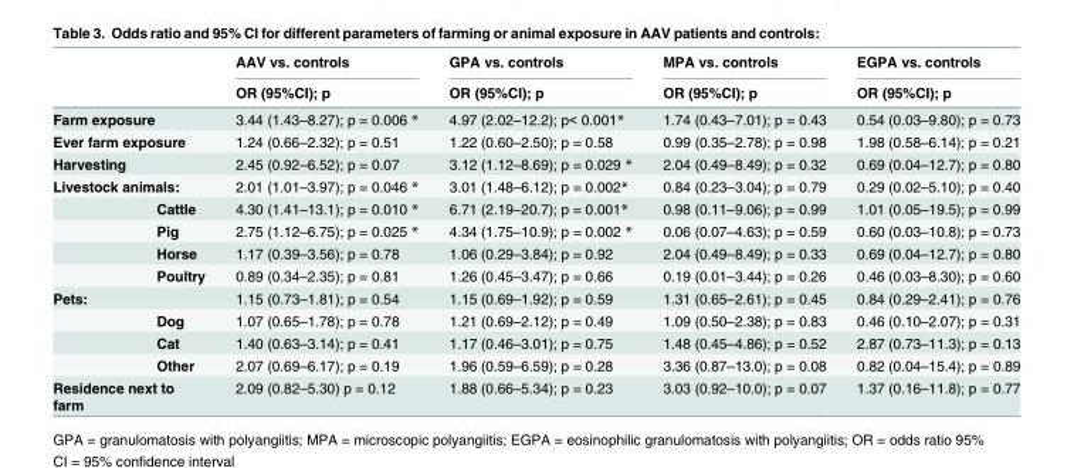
<table><thead><tr><td rowspan="2"></td><td rowspan="2"></td><td rowspan="2">AAV vs. controls OR (95%CI); p</td><td rowspan="2">GPA vs. controls OR (95%CI); p</td><td rowspan="2">MPA vs. controls OR (95%CI); p</td><td rowspan="2">EGPA vs. controls OR (95%CI); p</td></tr><tr></tr></thead><tbody><tr><td colspan="2">Farm exposure</td><td>3.44 (1.43–8.27); p = 0.006 *</td><td>4.97 (2.02–12.2); p&lt; 0.001*</td><td>1.74 (0.43–7.01); p = 0.43</td><td>0.54 (0.03–9.80); p = 0.73</td></tr><tr><td colspan="2">Ever farm exposure</td><td>1.24 (0.66–2.32); p = 0.51</td><td>1.22 (0.60–2.50); p = 0.58</td><td>0.99 (0.35–2.78); p = 0.98</td><td>1.98 (0.58–6.14); p = 0.21</td></tr><tr><td>Harvesting</td><td></td><td>2.45 (0.92–6.52); p = 0.07</td><td>3.12 (1.12–8.69); p = 0.029 *</td><td>2.04 (0.49–8.49); p = 0.32</td><td>0.69 (0.04–12.7); p = 0.80</td></tr><tr><td colspan="2">Livestock animals:</td><td>2.01 (1.01–3.97); p = 0.046 *</td><td>3.01 (1.48–6.12); p = 0.002*</td><td>0.84 (0.23–3.04); p = 0.79</td><td>0.29 (0.02–5.10); p = 0.40</td></tr><tr><td></td><td>Cattle</td><td>4.30 (1.41–13.1); p = 0.010 *</td><td>6.71 (2.19–20.7); p = 0.001*</td><td>0.98 (0.11–9.06); p = 0.99</td><td>1.01 (0.05–19.5); p = 0.99</td></tr><tr><td></td><td>Pig</td><td>2.75 (1.12–6.75); p = 0.025 *</td><td>4.34 (1.75–10.9); p = 0.002 *</td><td>0.06 (0.07–4.63); p = 0.59</td><td>0.60 (0.03–10.8); p = 0.73</td></tr><tr><td></td><td>Horse</td><td>1.17 (0.39–3.56); p = 0.78</td><td>1.06 (0.29–3.84); p = 0.92</td><td>2.04 (0.49–8.49); p = 0.33</td><td>0.69 (0.04–12.7); p = 0.80</td></tr><tr><td></td><td>Poultry</td><td>0.89 (0.34–2.35); p = 0.81</td><td>1.26 (0.45–3.47); p = 0.66</td><td>0.19 (0.01–3.44); p = 0.26</td><td>0.46 (0.03–8.30); p = 0.60</td></tr><tr><td rowspan="4">Pets:</td><td></td><td>1.15 (0.73–1.81); p = 0.54</td><td>1.15 (0.69–1.92); p = 0.59</td><td>1.31 (0.65–2.61); p = 0.45</td><td>0.84 (0.29–2.41); p = 0.76</td></tr><tr><td>Dog</td><td>1.07 (0.65–1.78); p = 0.78</td><td>1.21 (0.69–2.12); p = 0.49</td><td>1.09 (0.50–2.38); p = 0.83</td><td>0.46 (0.10–2.07); p = 0.31</td></tr><tr><td>Cat</td><td>1.40 (0.63–3.14); p = 0.41</td><td>1.17 (0.46–3.01); p = 0.75</td><td>1.48 (0.45–4.86); p = 0.52</td><td>2.87 (0.73–11.3); p = 0.13</td></tr><tr><td>Other</td><td>2.07 (0.69–6.17); p = 0.19</td><td>1.96 (0.59–6.59); p = 0.28</td><td>3.36 (0.87–13.0); p = 0.08</td><td>0.82 (0.04–15.4); p = 0.89</td></tr><tr><td colspan="2">Residence next to farm</td><td>2.09 (0.82–5.30) p = 0.12</td><td>1.88 (0.66–5.34); p = 0.23</td><td>3.03 (0.92–10.0); p = 0.07</td><td>1.37 (0.16–11.8); p = 0.77</td></tr></tbody></table>